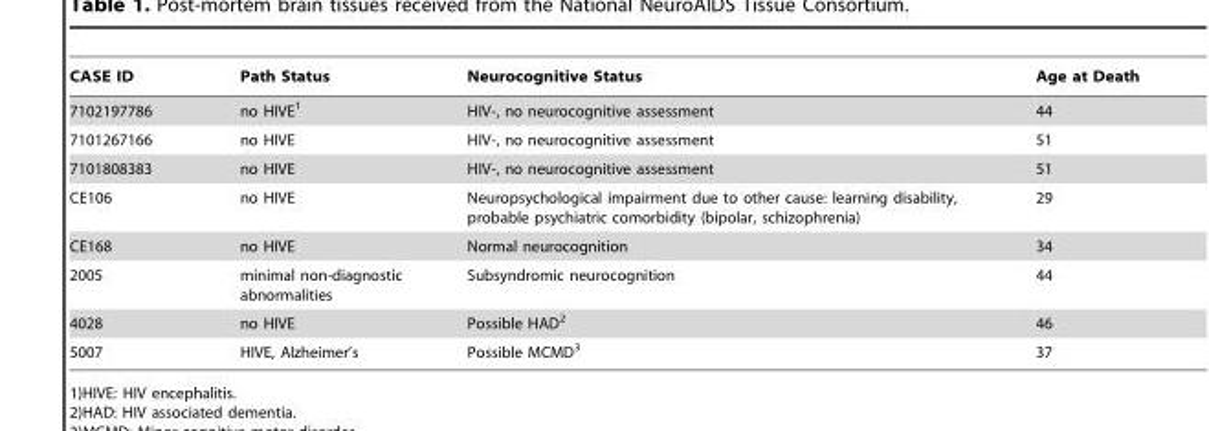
<table><thead><tr><td>CASE ID</td><td>Path Status</td><td>Neurocognitive Status</td><td>Age at Death</td></tr></thead><tbody><tr><td>7102197786</td><td>no HIVE<sup>1</sup></td><td>HIV-, no neurocognitive assessment</td><td>44</td></tr><tr><td>7101267166</td><td>no HIVE</td><td>HIV-, no neurocognitive assessment</td><td>51</td></tr><tr><td>7101808383</td><td>no HIVE</td><td>HIV-, no neurocognitive assessment</td><td>51</td></tr><tr><td>CE106</td><td>no HIVE</td><td>Neuropsychological impairment due to other cause: learning disability, probable psychiatric comorbidity (bipolar, schizophrenia)</td><td>29</td></tr><tr><td>CE168</td><td>no HIVE</td><td>Normal neurocognition</td><td>34</td></tr><tr><td>2005</td><td>minimal non-diagnostic abnormalities</td><td>Subsyndromic neurocognition</td><td>44</td></tr><tr><td>4028</td><td>no HIVE</td><td>Possible HAD<sup>2</sup></td><td>46</td></tr><tr><td>5007</td><td>HIVE, Alzheimer’s</td><td>Possible MCMD<sup>3</sup></td><td>37</td></tr></tbody></table>